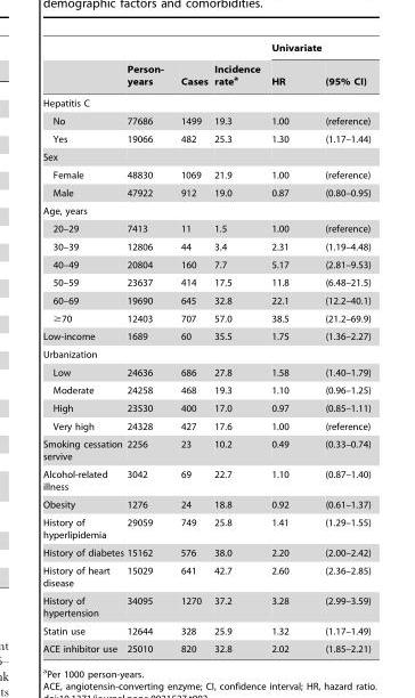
<table><thead><tr><td rowspan="2"></td><td rowspan="2">Person- years</td><td rowspan="2">Cases</td><td rowspan="2">Incidence rate<sup>a</sup></td><td colspan="2">Univariate</td></tr><tr><td>HR</td><td>(95% CI)</td></tr></thead><tbody><tr><td colspan="6">Hepatitis C</td></tr><tr><td>No</td><td>77686</td><td>1499</td><td>19.3</td><td>1.00</td><td>(reference)</td></tr><tr><td>Yes</td><td>19066</td><td>482</td><td>25.3</td><td>1.30</td><td>(1.17–1.44)</td></tr><tr><td colspan="6">Sex</td></tr><tr><td>Female</td><td>48830</td><td>1069</td><td>21.9</td><td>1.00</td><td>(reference)</td></tr><tr><td>Male</td><td>47922</td><td>912</td><td>19.0</td><td>0.87</td><td>(0.80–0.95)</td></tr><tr><td colspan="6">Age, years</td></tr><tr><td>20–29</td><td>7413</td><td>11</td><td>1.5</td><td>1.00</td><td>(reference)</td></tr><tr><td>30–39</td><td>12806</td><td>44</td><td>3.4</td><td>2.31</td><td>(1.19–4.48)</td></tr><tr><td>40–49</td><td>20804</td><td>160</td><td>7.7</td><td>5.17</td><td>(2.81–9.53)</td></tr><tr><td>50–59</td><td>23637</td><td>414</td><td>17.5</td><td>11.8</td><td>(6.48–21.5)</td></tr><tr><td>60–69</td><td>19690</td><td>645</td><td>32.8</td><td>22.1</td><td>(12.2–40.1)</td></tr><tr><td>≥70</td><td>12403</td><td>707</td><td>57.0</td><td>38.5</td><td>(21.2–69.9)</td></tr><tr><td>Low-income</td><td>1689</td><td>60</td><td>35.5</td><td>1.75</td><td>(1.36–2.27)</td></tr><tr><td colspan="6">Urbanization</td></tr><tr><td>Low</td><td>24636</td><td>686</td><td>27.8</td><td>1.58</td><td>(1.40–1.79)</td></tr><tr><td>Moderate</td><td>24258</td><td>468</td><td>19.3</td><td>1.10</td><td>(0.96–1.25)</td></tr><tr><td>High</td><td>23530</td><td>400</td><td>17.0</td><td>0.97</td><td>(0.85–1.11)</td></tr><tr><td>Very high</td><td>24328</td><td>427</td><td>17.6</td><td>1.00</td><td>(reference)</td></tr><tr><td>Smoking cessation servive</td><td>2256</td><td>23</td><td>10.2</td><td>0.49</td><td>(0.33–0.74)</td></tr><tr><td>Alcohol-related illness</td><td>3042</td><td>69</td><td>22.7</td><td>1.10</td><td>(0.87–1.40)</td></tr><tr><td>Obesity</td><td>1276</td><td>24</td><td>18.8</td><td>0.92</td><td>(0.61–1.37)</td></tr><tr><td>History of hyperlipidemia</td><td>29059</td><td>749</td><td>25.8</td><td>1.41</td><td>(1.29–1.55)</td></tr><tr><td>History of diabetes</td><td>15162</td><td>576</td><td>38.0</td><td>2.20</td><td>(2.00–2.42)</td></tr><tr><td>History of heart disease</td><td>15029</td><td>641</td><td>42.7</td><td>2.60</td><td>(2.36–2.85)</td></tr><tr><td>History of hypertension</td><td>34095</td><td>1270</td><td>37.2</td><td>3.28</td><td>(2.99–3.59)</td></tr><tr><td>Statin use</td><td>12644</td><td>328</td><td>25.9</td><td>1.32</td><td>(1.17–1.49)</td></tr><tr><td>ACE inhibitor use</td><td>25010</td><td>820</td><td>32.8</td><td>2.02</td><td>(1.85–2.21)</td></tr></tbody></table>